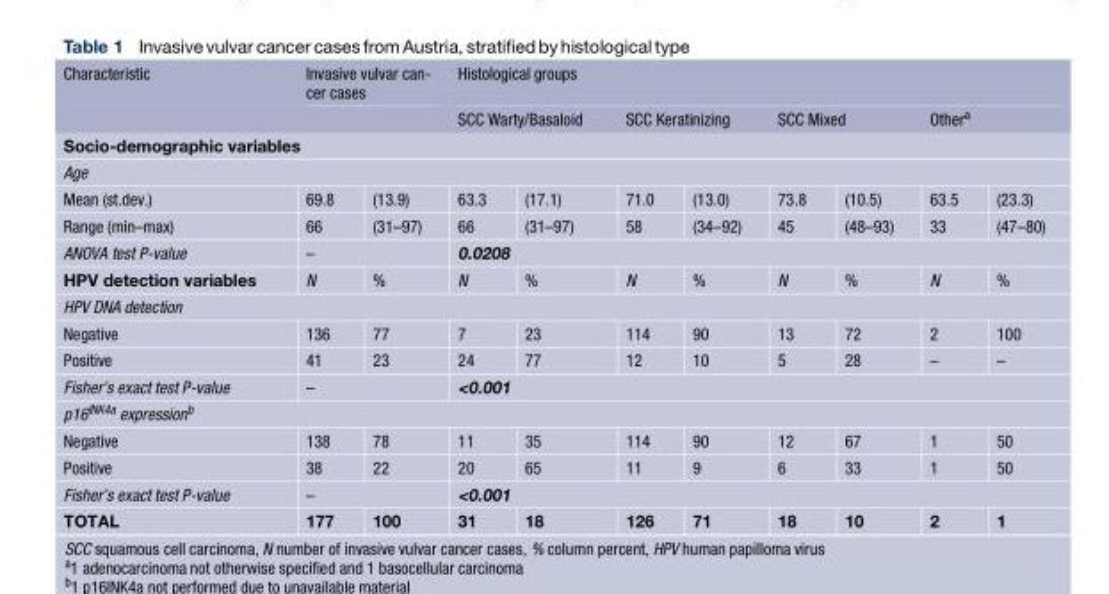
<table><thead><tr><td rowspan="2">Characteristic</td><td colspan="2">Invasive vulvar can- cer cases</td><td colspan="8">Histological groups</td></tr><tr><td></td><td></td><td colspan="2">SCC Warty/Basaloid</td><td colspan="2">SCC Keratinizing</td><td colspan="2">SCC Mixed</td><td colspan="2">Other<sup>a</sup></td></tr><tr><td rowspan="2" colspan="11">Socio-demographic variables Age</td></tr><tr></tr><tr><td>Mean (st.dev.)</td><td>69.8</td><td>(13.9)</td><td>63.3</td><td>(17.1)</td><td>71.0</td><td>(13.0)</td><td>73.8</td><td>(10.5)</td><td>63.5</td><td>(23.3)</td></tr></thead><tbody><tr><td>Range (min–max)</td><td>66</td><td>(31–97)</td><td>66</td><td>(31–97)</td><td>58</td><td>(34–92)</td><td>45</td><td>(48–93)</td><td>33</td><td>(47–80)</td></tr><tr><td>ANOVA test P-value</td><td colspan="2">–</td><td colspan="8">0.0208</td></tr><tr><td>HPV detection variables</td><td>N</td><td>%</td><td>N</td><td>%</td><td>N</td><td>%</td><td>N</td><td>%</td><td>N</td><td>%</td></tr><tr><td colspan="11">HPV DNA detection</td></tr><tr><td>Negative</td><td>136</td><td>77</td><td>7</td><td>23</td><td>114</td><td>90</td><td>13</td><td>72</td><td>2</td><td>100</td></tr><tr><td>Positive</td><td>41</td><td>23</td><td>24</td><td>77</td><td>12</td><td>10</td><td>5</td><td>28</td><td>–</td><td>–</td></tr><tr><td>Fisher’s exact test P-value</td><td colspan="2">–</td><td colspan="8">&lt;0.001</td></tr><tr><td colspan="11">p16<sup>INK4a</sup> expression<sup>b</sup></td></tr><tr><td>Negative</td><td>138</td><td>78</td><td>11</td><td>35</td><td>114</td><td>90</td><td>12</td><td>67</td><td>1</td><td>50</td></tr><tr><td>Positive</td><td>38</td><td>22</td><td>20</td><td>65</td><td>11</td><td>9</td><td>6</td><td>33</td><td>1</td><td>50</td></tr><tr><td>Fisher’s exact test P-value</td><td colspan="2">–</td><td colspan="8">&lt;0.001</td></tr><tr><td>TOTAL</td><td>177</td><td>100</td><td>31</td><td>18</td><td>126</td><td>71</td><td>18</td><td>10</td><td>2</td><td>1</td></tr></tbody></table>